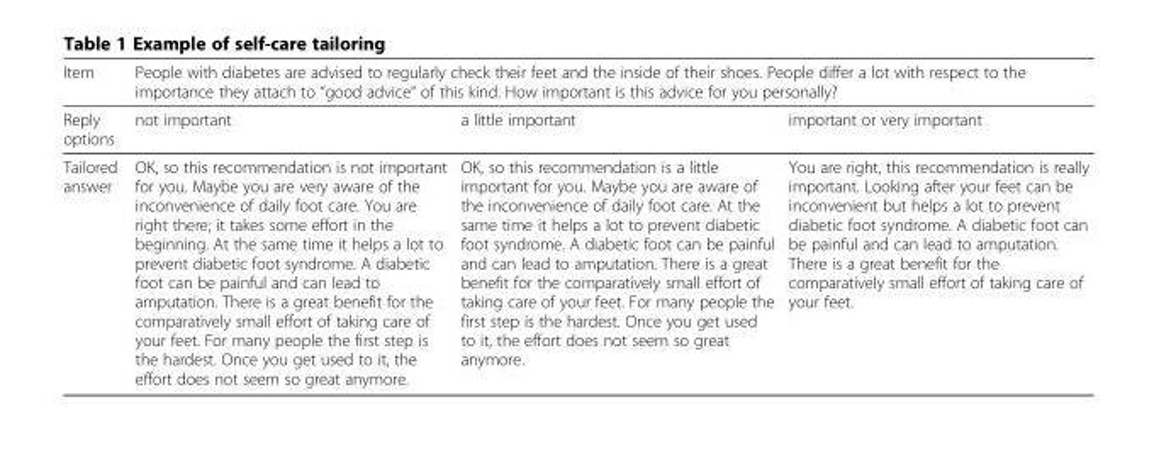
<table><thead><tr><td rowspan="2">Item Reply options</td><td colspan="3">People with diabetes are advised to regularly check their feet and the inside of their shoes. People differ a lot with respect to the importance they attach to “good advice“ of this kind. How important is this advice for you personally?</td></tr><tr><td>not important</td><td>a little important</td><td>important or very important</td></tr></thead><tbody><tr><td>Tailored answer</td><td>OK, so this recommendation is not important for you. Maybe you are very aware of the inconvenience of daily foot care. You are right there; it takes some effort in the beginning. At the same time it helps a lot to prevent diabetic foot syndrome. A diabetic foot can be painful and can lead to amputation. There is a great benefit for the comparatively small effort of taking care of your feet. For many people the first step is the hardest. Once you get used to it, the effort does not seem so great anymore.</td><td>OK, so this recommendation is a little important for you. Maybe you are aware of the inconvenience of daily foot care. At the same time it helps a lot to prevent diabetic foot syndrome. A diabetic foot can be painful and can lead to amputation. There is a great benefit for the comparatively small effort of taking care of your feet. For many people the first step is the hardest. Once you get used to it, the effort does not seem so great anymore.</td><td>You are right, this recommendation is really important. Looking after your feet can be inconvenient but helps a lot to prevent diabetic foot syndrome. A diabetic foot can be painful and can lead to amputation. There is a great benefit for the comparatively small effort of taking care of your feet.</td></tr></tbody></table>